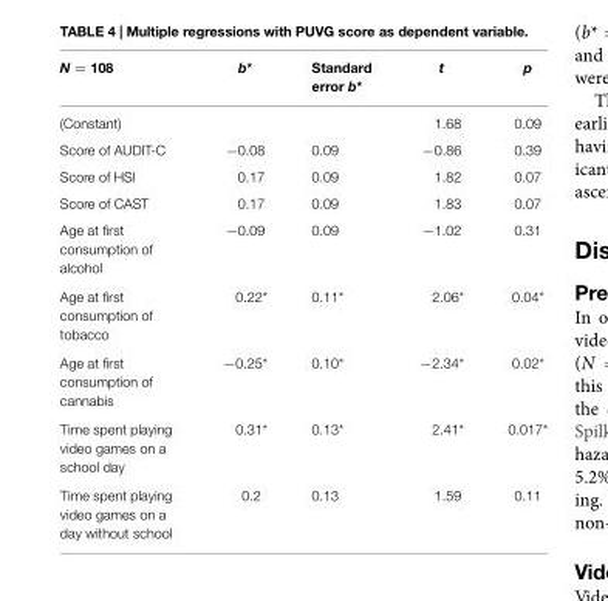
<table><thead><tr><td>N = 108</td><td>b*</td><td>Standard error b*</td><td>t</td><td>p</td></tr></thead><tbody><tr><td>(Constant)</td><td></td><td></td><td>1.68</td><td>0.09</td></tr><tr><td>Score of AUDIT-C</td><td>−0.08</td><td>0.09</td><td>−0.86</td><td>0.39</td></tr><tr><td>Score of HSI</td><td>0.17</td><td>0.09</td><td>1.82</td><td>0.07</td></tr><tr><td>Score of CAST</td><td>0.17</td><td>0.09</td><td>1.83</td><td>0.07</td></tr><tr><td>Age at first consumption of alcohol</td><td>−0.09</td><td>0.09</td><td>−1.02</td><td>0.31</td></tr><tr><td>Age at first consumption of tobacco</td><td>0.22*</td><td>0.11*</td><td>2.06*</td><td>0.04*</td></tr><tr><td>Age at first consumption of cannabis</td><td>−0.25*</td><td>0.10*</td><td>−2.34*</td><td>0.02*</td></tr><tr><td>Time spent playing video games on a school day</td><td>0.31*</td><td>0.13*</td><td>2.41*</td><td>0.017*</td></tr><tr><td>Time spent playing video games on a day without school</td><td>0.2</td><td>0.13</td><td>1.59</td><td>0.11</td></tr></tbody></table>